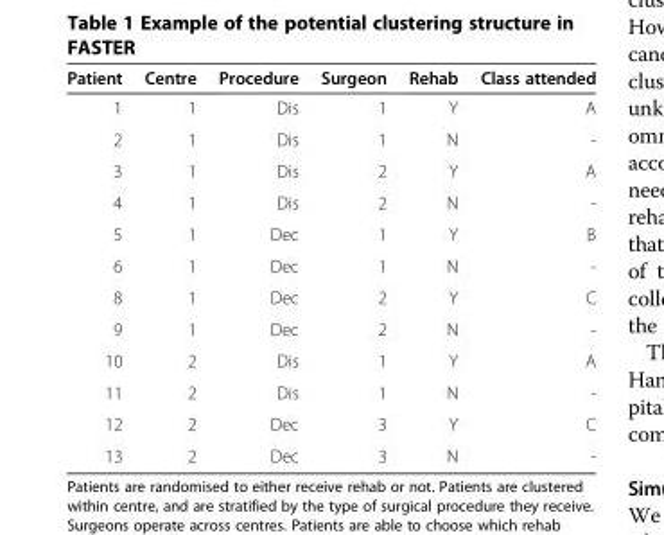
<table><thead><tr><td>Patient</td><td>Centre</td><td>Procedure</td><td>Surgeon</td><td>Rehab</td><td>Class attended</td></tr></thead><tbody><tr><td>1</td><td>1</td><td>Dis</td><td>1</td><td>Y</td><td>A</td></tr><tr><td>2</td><td>1</td><td>Dis</td><td>1</td><td>N</td><td>-</td></tr><tr><td>3</td><td>1</td><td>Dis</td><td>2</td><td>Y</td><td>A</td></tr><tr><td>4</td><td>1</td><td>Dis</td><td>2</td><td>N</td><td>-</td></tr><tr><td>5</td><td>1</td><td>Dec</td><td>1</td><td>Y</td><td>B</td></tr><tr><td>6</td><td>1</td><td>Dec</td><td>1</td><td>N</td><td>-</td></tr><tr><td>8</td><td>1</td><td>Dec</td><td>2</td><td>Y</td><td>C</td></tr><tr><td>9</td><td>1</td><td>Dec</td><td>2</td><td>N</td><td>-</td></tr><tr><td>10</td><td>2</td><td>Dis</td><td>1</td><td>Y</td><td>A</td></tr><tr><td>11</td><td>2</td><td>Dis</td><td>1</td><td>N</td><td>-</td></tr><tr><td>12</td><td>2</td><td>Dec</td><td>3</td><td>Y</td><td>C</td></tr><tr><td>13</td><td>2</td><td>Dec</td><td>3</td><td>N</td><td>-</td></tr></tbody></table>